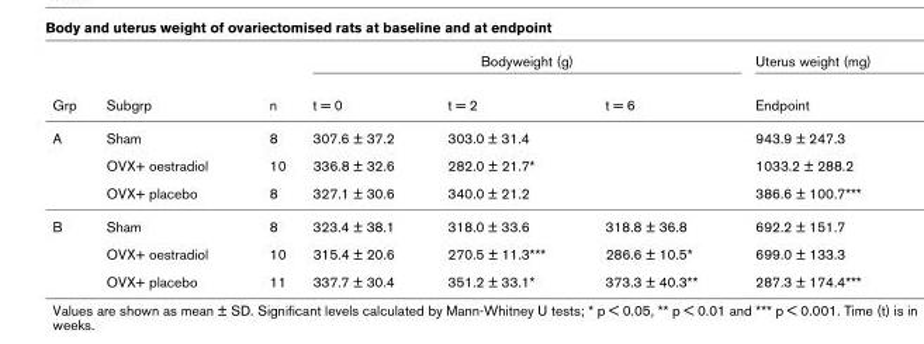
<table><thead><tr><td rowspan="2">Grp</td><td rowspan="2">Subgrp</td><td rowspan="2">n</td><td colspan="3">Bodyweight (g)</td><td rowspan="2">Uterus weight (mg) Endpoint</td></tr><tr><td>t = 0</td><td>t = 2</td><td>t = 6</td></tr></thead><tbody><tr><td rowspan="3">A</td><td>Sham</td><td>8</td><td>307.6 ± 37.2</td><td>303.0 ± 31.4</td><td></td><td>943.9 ± 247.3</td></tr><tr><td>OVX+ oestradiol</td><td>10</td><td>336.8 ± 32.6</td><td>282.0 ± 21.7*</td><td></td><td>1033.2 ± 288.2</td></tr><tr><td>OVX+ placebo</td><td>8</td><td>327.1 ± 30.6</td><td>340.0 ± 21.2</td><td></td><td>386.6 ± 100.7***</td></tr><tr><td rowspan="3">B</td><td>Sham</td><td>8</td><td>323.4 ± 38.1</td><td>318.0 ± 33.6</td><td>318.8 ± 36.8</td><td>692.2 ± 151.7</td></tr><tr><td>OVX+ oestradiol</td><td>10</td><td>315.4 ± 20.6</td><td>270.5 ± 11.3***</td><td>286.6 ± 10.5*</td><td>699.0 ± 133.3</td></tr><tr><td>OVX+ placebo</td><td>11</td><td>337.7 ± 30.4</td><td>351.2 ± 33.1*</td><td>373.3 ± 40.3**</td><td>287.3 ± 174.4***</td></tr></tbody></table>